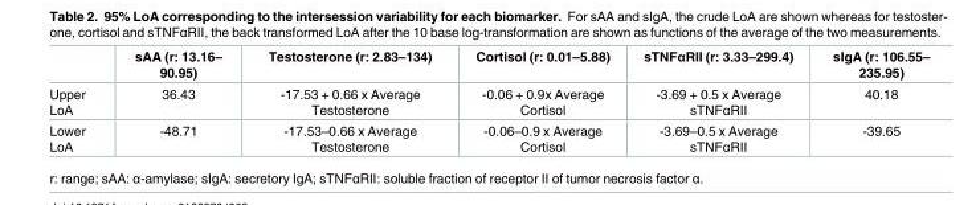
<table><thead><tr><td></td><td>sAA (r: 13.16– 90.95)</td><td>Testosterone (r: 2.83–134)</td><td>Cortisol (r: 0.01–5.88)</td><td>sTNFαRII (r: 3.33–299.4)</td><td>sIgA (r: 106.55– 235.95)</td></tr></thead><tbody><tr><td>Upper LoA</td><td>36.43</td><td>-17.53 + 0.66 x Average Testosterone</td><td>-0.06 + 0.9x Average Cortisol</td><td>-3.69 + 0.5 x Average sTNFαRII</td><td>40.18</td></tr><tr><td>Lower LoA</td><td>-48.71</td><td>-17.53–0.66 x Average Testosterone</td><td>-0.06–0.9 x Average Cortisol</td><td>-3.69–0.5 x Average sTNFαRII</td><td>-39.65</td></tr></tbody></table>